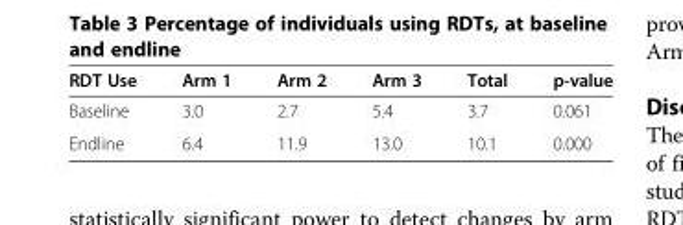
<table><thead><tr><td>RDT Use</td><td>Arm 1</td><td>Arm 2</td><td>Arm 3</td><td>Total</td><td>p-value</td></tr></thead><tbody><tr><td>Baseline</td><td>3.0</td><td>2.7</td><td>5.4</td><td>3.7</td><td>0.061</td></tr><tr><td>Endline</td><td>6.4</td><td>11.9</td><td>13.0</td><td>10.1</td><td>0.000</td></tr></tbody></table>